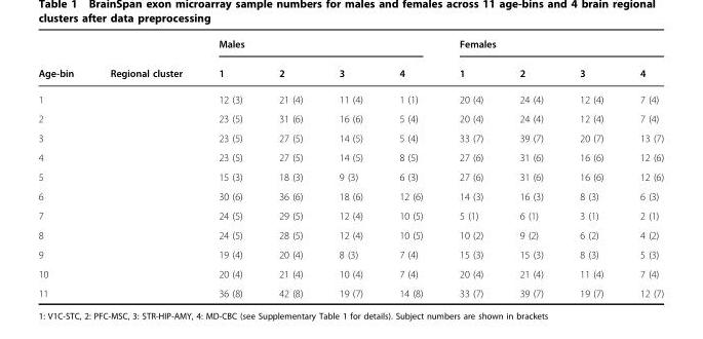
<table><thead><tr><td rowspan="2">Age-bin</td><td rowspan="2">Regional cluster</td><td colspan="4">Males</td><td colspan="4">Females</td></tr><tr><td>1</td><td>2</td><td>3</td><td>4</td><td>1</td><td>2</td><td>3</td><td>4</td></tr></thead><tbody><tr><td>1</td><td></td><td>12 (3)</td><td>21 (4)</td><td>11 (4)</td><td>1 (1)</td><td>20 (4)</td><td>24 (4)</td><td>12 (4)</td><td>7 (4)</td></tr><tr><td>2</td><td></td><td>23 (5)</td><td>31 (6)</td><td>16 (6)</td><td>5 (4)</td><td>20 (4)</td><td>24 (4)</td><td>12 (4)</td><td>7 (4)</td></tr><tr><td>3</td><td></td><td>23 (5)</td><td>27 (5)</td><td>14 (5)</td><td>5 (4)</td><td>33 (7)</td><td>39 (7)</td><td>20 (7)</td><td>13 (7)</td></tr><tr><td>4</td><td></td><td>23 (5)</td><td>27 (5)</td><td>14 (5)</td><td>8 (5)</td><td>27 (6)</td><td>31 (6)</td><td>16 (6)</td><td>12 (6)</td></tr><tr><td>5</td><td></td><td>15 (3)</td><td>18 (3)</td><td>9 (3)</td><td>6 (3)</td><td>27 (6)</td><td>31 (6)</td><td>16 (6)</td><td>12 (6)</td></tr><tr><td>6</td><td></td><td>30 (6)</td><td>36 (6)</td><td>18 (6)</td><td>12 (6)</td><td>14 (3)</td><td>16 (3)</td><td>8 (3)</td><td>6 (3)</td></tr><tr><td>7</td><td></td><td>24 (5)</td><td>29 (5)</td><td>12 (4)</td><td>10 (5)</td><td>5 (1)</td><td>6 (1)</td><td>3 (1)</td><td>2 (1)</td></tr><tr><td>8</td><td></td><td>24 (5)</td><td>28 (5)</td><td>12 (4)</td><td>10 (5)</td><td>10 (2)</td><td>9 (2)</td><td>6 (2)</td><td>4 (2)</td></tr><tr><td>9</td><td></td><td>19 (4)</td><td>20 (4)</td><td>8 (3)</td><td>7 (4)</td><td>15 (3)</td><td>15 (3)</td><td>8 (3)</td><td>5 (3)</td></tr><tr><td>10</td><td></td><td>20 (4)</td><td>21 (4)</td><td>10 (4)</td><td>7 (4)</td><td>20 (4)</td><td>21 (4)</td><td>11 (4)</td><td>7 (4)</td></tr><tr><td>11</td><td></td><td>36 (8)</td><td>42 (8)</td><td>19 (7)</td><td>14 (8)</td><td>33 (7)</td><td>39 (7)</td><td>19 (7)</td><td>12 (7)</td></tr></tbody></table>